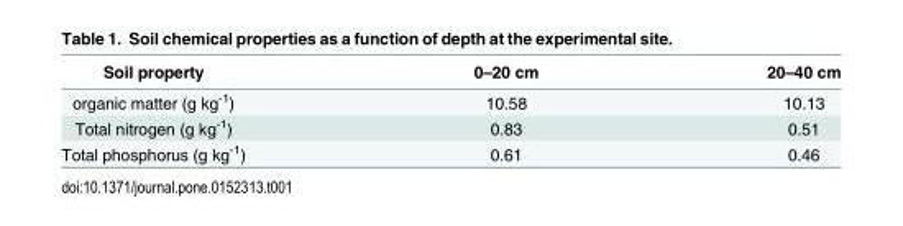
<table><thead><tr><td>Soil property</td><td>0–20 cm</td><td>20–40 cm</td></tr></thead><tbody><tr><td>organic matter (g kg<sup>-1</sup>)</td><td>10.58</td><td>10.13</td></tr><tr><td>Total nitrogen (g kg<sup>-1</sup>)</td><td>0.83</td><td>0.51</td></tr><tr><td>Total phosphorus (g kg<sup>-1</sup>)</td><td>0.61</td><td>0.46</td></tr></tbody></table>